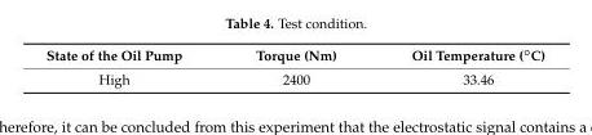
<table><thead><tr><td>State of the Oil Pump</td><td>Torque (Nm)</td><td>Oil Temperature (◦C)</td></tr></thead><tbody><tr><td>High</td><td>2400</td><td>33.46</td></tr></tbody></table>